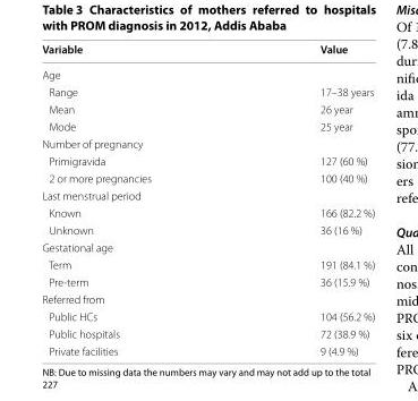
<table><thead><tr><td>Variable</td><td>Value</td></tr></thead><tbody><tr><td colspan="2">Age</td></tr><tr><td>Range</td><td>17–38 years</td></tr><tr><td>Mean</td><td>26 year</td></tr><tr><td>Mode</td><td>25 year</td></tr><tr><td colspan="2">Number of pregnancy</td></tr><tr><td>Primigravida</td><td>127 (60 %)</td></tr><tr><td>2 or more pregnancies</td><td>100 (40 %)</td></tr><tr><td colspan="2">Last menstrual period</td></tr><tr><td>Known</td><td>166 (82.2 %)</td></tr><tr><td>Unknown</td><td>36 (16 %)</td></tr><tr><td colspan="2">Gestational age</td></tr><tr><td>Term</td><td>191 (84.1 %)</td></tr><tr><td>Pre-term</td><td>36 (15.9 %)</td></tr><tr><td colspan="2">Referred from</td></tr><tr><td>Public HCs</td><td>104 (56.2 %)</td></tr><tr><td>Public hospitals</td><td>72 (38.9 %)</td></tr><tr><td>Private facilities</td><td>9 (4.9 %)</td></tr></tbody></table>